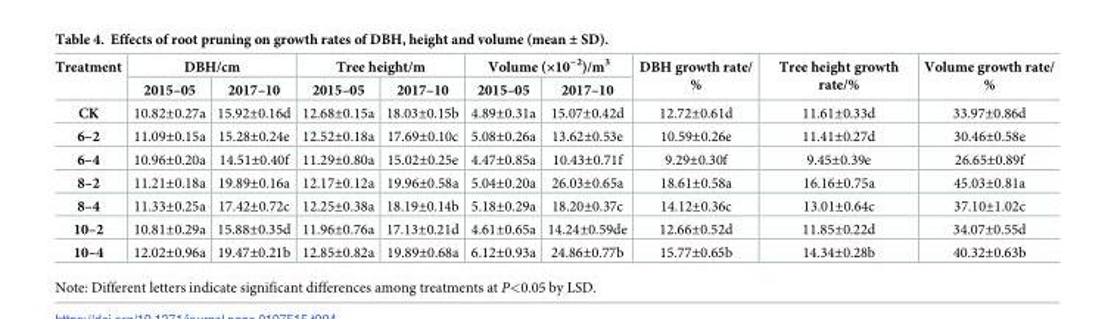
<table><thead><tr><td rowspan="2">Treatment</td><td colspan="2">DBH/cm</td><td colspan="2">Tree height/m</td><td colspan="2">Volume (×10<sup>−2</sup>)/m<sup>3</sup></td><td rowspan="2">DBH growth rate/ %</td><td rowspan="2">Tree height growth rate/%</td><td rowspan="2">Volume growth rate/ %</td></tr><tr><td>2015–05</td><td>2017–10</td><td>2015–05</td><td>2017–10</td><td>2015–05</td><td>2017–10</td></tr></thead><tbody><tr><td>CK</td><td>10.82±0.27a</td><td>15.92±0.16d</td><td>12.68±0.15a</td><td>18.03±0.15b</td><td>4.89±0.31a</td><td>15.07±0.42d</td><td>12.72±0.61d</td><td>11.61±0.33d</td><td>33.97±0.86d</td></tr><tr><td>6–2</td><td>11.09±0.15a</td><td>15.28±0.24e</td><td>12.52±0.18a</td><td>17.69±0.10c</td><td>5.08±0.26a</td><td>13.62±0.53e</td><td>10.59±0.26e</td><td>11.41±0.27d</td><td>30.46±0.58e</td></tr><tr><td>6–4</td><td>10.96±0.20a</td><td>14.51±0.40f</td><td>11.29±0.80a</td><td>15.02±0.25e</td><td>4.47±0.85a</td><td>10.43±0.71f</td><td>9.29±0.30f</td><td>9.45±0.39e</td><td>26.65±0.89f</td></tr><tr><td>8–2</td><td>11.21±0.18a</td><td>19.89±0.16a</td><td>12.17±0.12a</td><td>19.96±0.58a</td><td>5.04±0.20a</td><td>26.03±0.65a</td><td>18.61±0.58a</td><td>16.16±0.75a</td><td>45.03±0.81a</td></tr><tr><td>8–4</td><td>11.33±0.25a</td><td>17.42±0.72c</td><td>12.25±0.38a</td><td>18.19±0.14b</td><td>5.18±0.29a</td><td>18.20±0.37c</td><td>14.12±0.36c</td><td>13.01±0.64c</td><td>37.10±1.02c</td></tr><tr><td>10–2</td><td>10.81±0.29a</td><td>15.88±0.35d</td><td>11.96±0.76a</td><td>17.13±0.21d</td><td>4.61±0.65a</td><td>14.24±0.59de</td><td>12.66±0.52d</td><td>11.85±0.22d</td><td>34.07±0.55d</td></tr><tr><td>10–4</td><td>12.02±0.96a</td><td>19.47±0.21b</td><td>12.85±0.82a</td><td>19.89±0.68a</td><td>6.12±0.93a</td><td>24.86±0.77b</td><td>15.77±0.65b</td><td>14.34±0.28b</td><td>40.32±0.63b</td></tr></tbody></table>